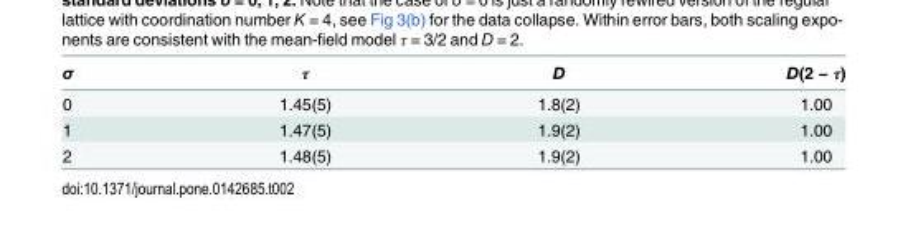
<table><thead><tr><td>σ</td><td>τ</td><td>D</td><td>D(2 − τ)</td></tr></thead><tbody><tr><td>0</td><td>1.45(5)</td><td>1.8(2)</td><td>1.00</td></tr><tr><td>1</td><td>1.47(5)</td><td>1.9(2)</td><td>1.00</td></tr><tr><td>2</td><td>1.48(5)</td><td>1.9(2)</td><td>1.00</td></tr></tbody></table>